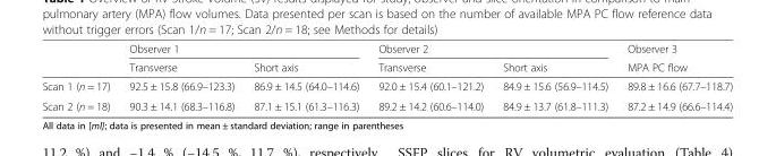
<table><thead><tr><td rowspan="2"></td><td colspan="2">Observer 1</td><td colspan="2">Observer 2</td><td rowspan="2">Observer 3 MPA PC flow</td></tr><tr><td>Transverse</td><td>Short axis</td><td>Transverse</td><td>Short axis</td></tr></thead><tbody><tr><td>Scan 1 (n = 17)</td><td>92.5 ± 15.8 (66.9–123.3)</td><td>86.9 ± 14.5 (64.0–114.6)</td><td>92.0 ± 15.4 (60.1–121.2)</td><td>84.9 ± 15.6 (56.9–114.5)</td><td>89.8 ± 16.6 (67.7–118.7)</td></tr><tr><td>Scan 2 (n = 18)</td><td>90.3 ± 14.1 (68.3–116.8)</td><td>87.1 ± 15.1 (61.3–116.3)</td><td>89.2 ± 14.2 (60.6–114.0)</td><td>84.9 ± 13.7 (61.8–111.3)</td><td>87.2 ± 14.9 (66.6–114.4)</td></tr></tbody></table>